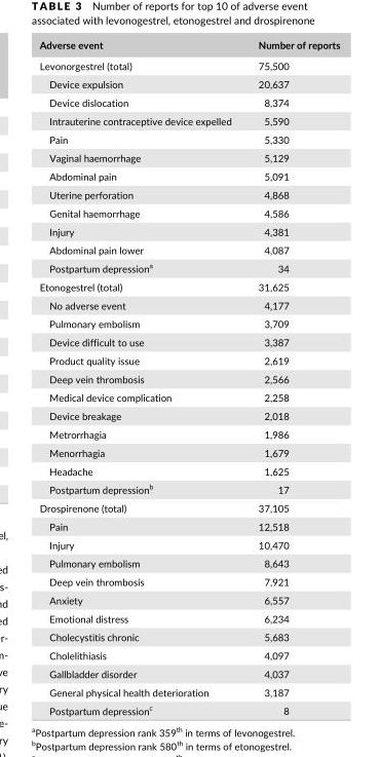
<table><thead><tr><td>Adverse event</td><td>Number of reports</td></tr></thead><tbody><tr><td>Levonorgestrel (total)</td><td>75,500</td></tr><tr><td>Device expulsion</td><td>20,637</td></tr><tr><td>Device dislocation</td><td>8,374</td></tr><tr><td>Intrauterine contraceptive device expelled</td><td>5,590</td></tr><tr><td>Pain</td><td>5,330</td></tr><tr><td>Vaginal haemorrhage</td><td>5,129</td></tr><tr><td>Abdominal pain</td><td>5,091</td></tr><tr><td>Uterine perforation</td><td>4,868</td></tr><tr><td>Genital haemorrhage</td><td>4,586</td></tr><tr><td>Injury</td><td>4,381</td></tr><tr><td>Abdominal pain lower</td><td>4,087</td></tr><tr><td>Postpartum depression<sup>a</sup></td><td>34</td></tr><tr><td>Etonogestrel (total)</td><td>31,625</td></tr><tr><td>No adverse event</td><td>4,177</td></tr><tr><td>Pulmonary embolism</td><td>3,709</td></tr><tr><td>Device difficult to use</td><td>3,387</td></tr><tr><td>Product quality issue</td><td>2,619</td></tr><tr><td>Deep vein thrombosis</td><td>2,566</td></tr><tr><td>Medical device complication</td><td>2,258</td></tr><tr><td>Device breakage</td><td>2,018</td></tr><tr><td>Metrorrhagia</td><td>1,986</td></tr><tr><td>Menorrhagia</td><td>1,679</td></tr><tr><td>Headache</td><td>1,625</td></tr><tr><td>Postpartum depression<sup>b</sup></td><td>17</td></tr><tr><td>Drospirenone (total)</td><td>37,105</td></tr><tr><td>Pain</td><td>12,518</td></tr><tr><td>Injury</td><td>10,470</td></tr><tr><td>Pulmonary embolism</td><td>8,643</td></tr><tr><td>Deep vein thrombosis</td><td>7,921</td></tr><tr><td>Anxiety</td><td>6,557</td></tr><tr><td>Emotional distress</td><td>6,234</td></tr><tr><td>Cholecystitis chronic</td><td>5,683</td></tr><tr><td>Cholelithiasis</td><td>4,097</td></tr><tr><td>Gallbladder disorder</td><td>4,037</td></tr><tr><td>General physical health deterioration</td><td>3,187</td></tr><tr><td>Postpartum depression<sup>c</sup></td><td>8</td></tr></tbody></table>